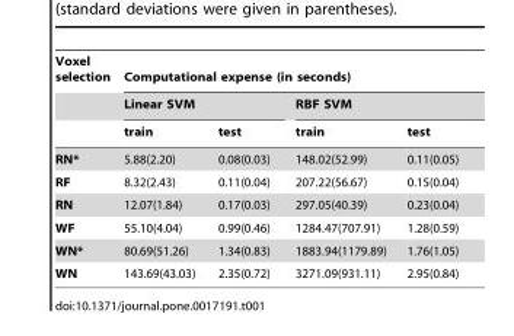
<table><thead><tr><td rowspan="3">Voxel selection</td><td colspan="4">Computational expense (in seconds)</td></tr><tr><td colspan="2">Linear SVM</td><td colspan="2">RBF SVM</td></tr><tr><td>train</td><td>test</td><td>train</td><td>test</td></tr></thead><tbody><tr><td>RN*</td><td>5.88(2.20)</td><td>0.08(0.03)</td><td>148.02(52.99)</td><td>0.11(0.05)</td></tr><tr><td>RF</td><td>8.32(2.43)</td><td>0.11(0.04)</td><td>207.22(56.67)</td><td>0.15(0.04)</td></tr><tr><td>RN</td><td>12.07(1.84)</td><td>0.17(0.03)</td><td>297.05(40.39)</td><td>0.23(0.04)</td></tr><tr><td>WF</td><td>55.10(4.04)</td><td>0.99(0.46)</td><td>1284.47(707.91)</td><td>1.28(0.59)</td></tr><tr><td>WN*</td><td>80.69(51.26)</td><td>1.34(0.83)</td><td>1883.94(1179.89)</td><td>1.76(1.05)</td></tr><tr><td>WN</td><td>143.69(43.03)</td><td>2.35(0.72)</td><td>3271.09(931.11)</td><td>2.95(0.84)</td></tr></tbody></table>